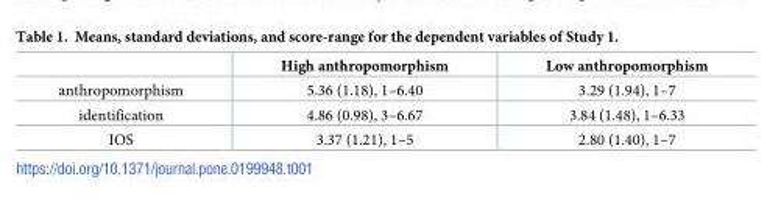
<table><thead><tr><td></td><td>High anthropomorphism</td><td>Low anthropomorphism</td></tr></thead><tbody><tr><td>anthropomorphism</td><td>5.36 (1.18), 1–6.40</td><td>3.29 (1.94), 1–7</td></tr><tr><td>identification</td><td>4.86 (0.98), 3–6.67</td><td>3.84 (1.48), 1–6.33</td></tr><tr><td>IOS</td><td>3.37 (1.21), 1–5</td><td>2.80 (1.40), 1–7</td></tr></tbody></table>